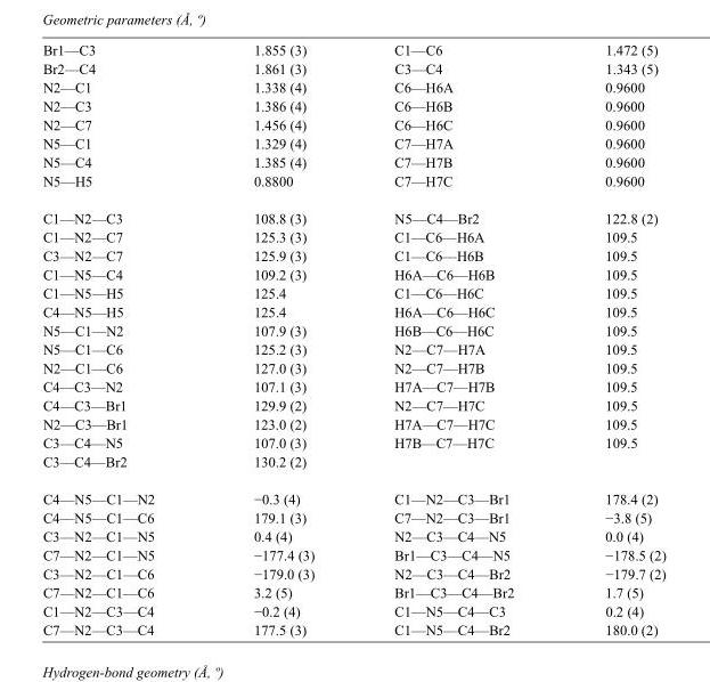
<table><tbody><tr><td>Br1—C3</td><td>1.855 (3)</td><td>C1—C6</td><td>1.472 (5)</td></tr><tr><td>Br2—C4</td><td>1.861 (3)</td><td>C3—C4</td><td>1.343 (5)</td></tr><tr><td>N2—C1</td><td>1.338 (4)</td><td>C6—H6A</td><td>0.9600</td></tr><tr><td>N2—C3</td><td>1.386 (4)</td><td>C6—H6B</td><td>0.9600</td></tr><tr><td>N2—C7</td><td>1.456 (4)</td><td>C6—H6C</td><td>0.9600</td></tr><tr><td>N5—C1</td><td>1.329 (4)</td><td>C7—H7A</td><td>0.9600</td></tr><tr><td>N5—C4</td><td>1.385 (4)</td><td>C7—H7B</td><td>0.9600</td></tr><tr><td>N5—H5</td><td>0.8800</td><td>C7—H7C</td><td>0.9600</td></tr><tr><td>C1—N2—C3</td><td>108.8 (3)</td><td>N5—C4—Br2</td><td>122.8 (2)</td></tr><tr><td>C1—N2—C7</td><td>125.3 (3)</td><td>C1—C6—H6A</td><td>109.5</td></tr><tr><td>C3—N2—C7</td><td>125.9 (3)</td><td>C1—C6—H6B</td><td>109.5</td></tr><tr><td>C1—N5—C4</td><td>109.2 (3)</td><td>H6A—C6—H6B</td><td>109.5</td></tr><tr><td>C1—N5—H5</td><td>125.4</td><td>C1—C6—H6C</td><td>109.5</td></tr><tr><td>C4—N5—H5</td><td>125.4</td><td>H6A—C6—H6C</td><td>109.5</td></tr><tr><td>N5—C1—N2</td><td>107.9 (3)</td><td>H6B—C6—H6C</td><td>109.5</td></tr><tr><td>N5—C1—C6</td><td>125.2 (3)</td><td>N2—C7—H7A</td><td>109.5</td></tr><tr><td>N2—C1—C6</td><td>127.0 (3)</td><td>N2—C7—H7B</td><td>109.5</td></tr><tr><td>C4—C3—N2</td><td>107.1 (3)</td><td>H7A—C7—H7B</td><td>109.5</td></tr><tr><td>C4—C3—Br1</td><td>129.9 (2)</td><td>N2—C7—H7C</td><td>109.5</td></tr><tr><td>N2—C3—Br1</td><td>123.0 (2)</td><td>H7A—C7—H7C</td><td>109.5</td></tr><tr><td>C3—C4—N5</td><td>107.0 (3)</td><td>H7B—C7—H7C</td><td>109.5</td></tr><tr><td>C3—C4—Br2</td><td>130.2 (2)</td><td></td><td></td></tr><tr><td>C4—N5—C1—N2</td><td>−0.3 (4)</td><td>C1—N2—C3—Br1</td><td>178.4 (2)</td></tr><tr><td>C4—N5—C1—C6</td><td>179.1 (3)</td><td>C7—N2—C3—Br1</td><td>−3.8 (5)</td></tr><tr><td>C3—N2—C1—N5</td><td>0.4 (4)</td><td>N2—C3—C4—N5</td><td>0.0 (4)</td></tr><tr><td>C7—N2—C1—N5</td><td>−177.4 (3)</td><td>Br1—C3—C4—N5</td><td>−178.5 (2)</td></tr><tr><td>C3—N2—C1—C6</td><td>−179.0 (3)</td><td>N2—C3—C4—Br2</td><td>−179.7 (2)</td></tr><tr><td>C7—N2—C1—C6</td><td>3.2 (5)</td><td>Br1—C3—C4—Br2</td><td>1.7 (5)</td></tr><tr><td>C1—N2—C3—C4</td><td>−0.2 (4)</td><td>C1—N5—C4—C3</td><td>0.2 (4)</td></tr><tr><td>C7—N2—C3—C4</td><td>177.5 (3)</td><td>C1—N5—C4—Br2</td><td>180.0 (2)</td></tr></tbody></table>